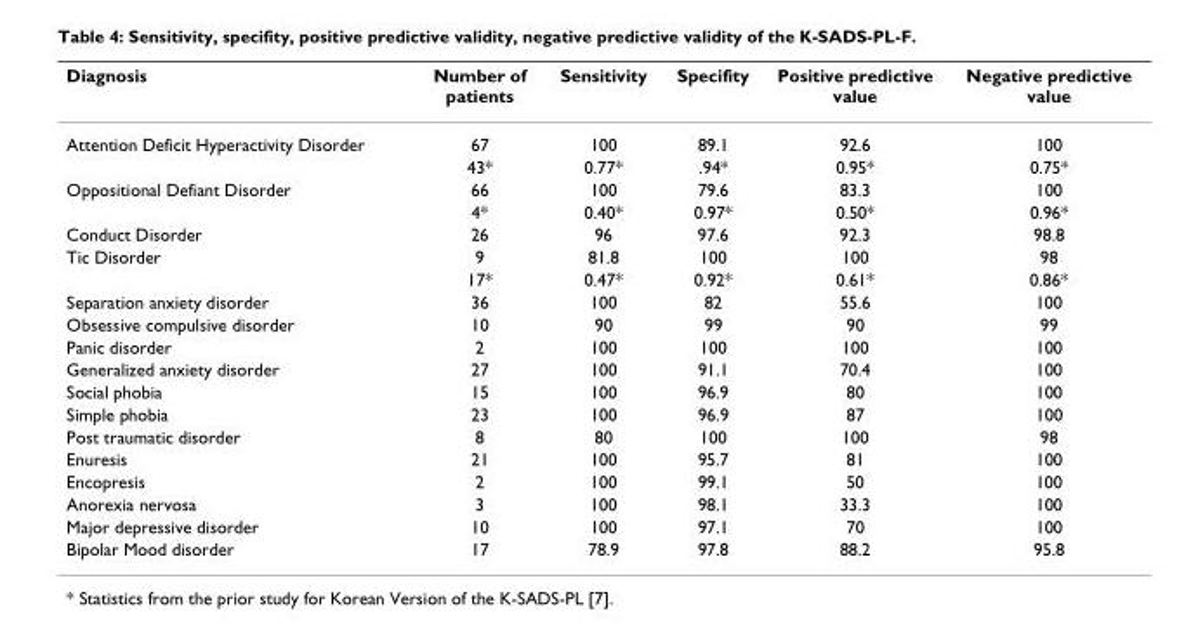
<table><thead><tr><td>Diagnosis</td><td>Number of patients</td><td>Sensitivity</td><td>Specifity</td><td>Positive predictive value</td><td>Negative predictive value</td></tr></thead><tbody><tr><td rowspan="2">Attention Deficit Hyperactivity Disorder</td><td>67</td><td>100</td><td>89.1</td><td>92.6</td><td>100</td></tr><tr><td>43*</td><td>0.77*</td><td>.94*</td><td>0.95*</td><td>0.75*</td></tr><tr><td rowspan="2">Oppositional Defiant Disorder</td><td>66</td><td>100</td><td>79.6</td><td>83.3</td><td>100</td></tr><tr><td>4*</td><td>0.40*</td><td>0.97*</td><td>0.50*</td><td>0.96*</td></tr><tr><td>Conduct Disorder</td><td>26</td><td>96</td><td>97.6</td><td>92.3</td><td>98.8</td></tr><tr><td rowspan="2">Tic Disorder</td><td>9</td><td>81.8</td><td>100</td><td>100</td><td>98</td></tr><tr><td>17*</td><td>0.47*</td><td>0.92*</td><td>0.61*</td><td>0.86*</td></tr><tr><td>Separation anxiety disorder</td><td>36</td><td>100</td><td>82</td><td>55.6</td><td>100</td></tr><tr><td>Obsessive compulsive disorder</td><td>10</td><td>90</td><td>99</td><td>90</td><td>99</td></tr><tr><td>Panic disorder</td><td>2</td><td>100</td><td>100</td><td>100</td><td>100</td></tr><tr><td>Generalized anxiety disorder</td><td>27</td><td>100</td><td>91.1</td><td>70.4</td><td>100</td></tr><tr><td>Social phobia</td><td>15</td><td>100</td><td>96.9</td><td>80</td><td>100</td></tr><tr><td>Simple phobia</td><td>23</td><td>100</td><td>96.9</td><td>87</td><td>100</td></tr><tr><td>Post traumatic disorder</td><td>8</td><td>80</td><td>100</td><td>100</td><td>98</td></tr><tr><td>Enuresis</td><td>21</td><td>100</td><td>95.7</td><td>81</td><td>100</td></tr><tr><td>Encopresis</td><td>2</td><td>100</td><td>99.1</td><td>50</td><td>100</td></tr><tr><td>Anorexia nervosa</td><td>3</td><td>100</td><td>98.1</td><td>33.3</td><td>100</td></tr><tr><td>Major depressive disorder</td><td>10</td><td>100</td><td>97.1</td><td>70</td><td>100</td></tr><tr><td>Bipolar Mood disorder</td><td>17</td><td>78.9</td><td>97.8</td><td>88.2</td><td>95.8</td></tr></tbody></table>